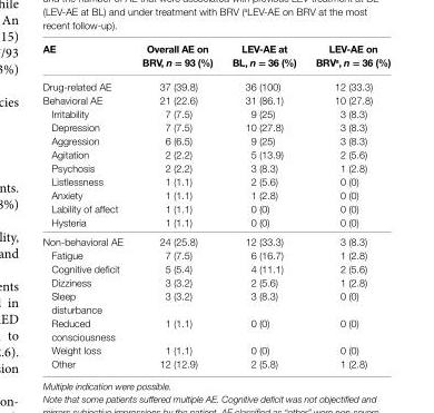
<table><thead><tr><td>ae</td><td>Overall ae on BrV, n = 93 (%)</td><td>leV-ae at Bl, n = 36 (%)</td><td>leV-ae on BrV<sup>a</sup>, n = 36 (%)</td></tr></thead><tbody><tr><td>Drug-related AE</td><td>37 (39.8)</td><td>36 (100)</td><td>12 (33.3)</td></tr><tr><td>Behavioral AE</td><td>21 (22.6)</td><td>31 (86.1)</td><td>10 (27.8)</td></tr><tr><td>Irritability</td><td>7 (7.5)</td><td>9 (25)</td><td>3 (8.3)</td></tr><tr><td>Depression</td><td>7 (7.5)</td><td>10 (27.8)</td><td>3 (8.3)</td></tr><tr><td>Aggression</td><td>6 (6.5)</td><td>9 (25)</td><td>3 (8.3)</td></tr><tr><td>Agitation</td><td>2 (2.2)</td><td>5 (13.9)</td><td>2 (5.6)</td></tr><tr><td>Psychosis</td><td>2 (2.2)</td><td>3 (8.3)</td><td>1 (2.8)</td></tr><tr><td>Listlessness</td><td>1 (1.1)</td><td>2 (5.6)</td><td>0 (0)</td></tr><tr><td>Anxiety</td><td>1 (1.1)</td><td>1 (2.8)</td><td>0 (0)</td></tr><tr><td>Lability of affect</td><td>1 (1.1)</td><td>0 (0)</td><td>0 (0)</td></tr><tr><td>Hysteria</td><td>1 (1.1)</td><td>0 (0)</td><td>0 (0)</td></tr><tr><td>Non-behavioral AE</td><td>24 (25.8)</td><td>12 (33.3)</td><td>3 (8.3)</td></tr><tr><td>Fatigue</td><td>7 (7.5)</td><td>6 (16.7)</td><td>1 (2.8)</td></tr><tr><td>Cognitive deficit</td><td>5 (5.4)</td><td>4 (11.1)</td><td>2 (5.6)</td></tr><tr><td>Dizziness</td><td>3 (3.2)</td><td>2 (5.6)</td><td>1 (2.8)</td></tr><tr><td>Sleep disturbance</td><td>3 (3.2)</td><td>3 (8.3)</td><td>0 (0)</td></tr><tr><td>Reduced consciousness</td><td>1 (1.1)</td><td>0 (0)</td><td>0 (0)</td></tr><tr><td>Weight loss</td><td>1 (1.1)</td><td>0 (0)</td><td>0 (0)</td></tr><tr><td>Other</td><td>12 (12.9)</td><td>2 (5.8)</td><td>1 (2.8)</td></tr></tbody></table>